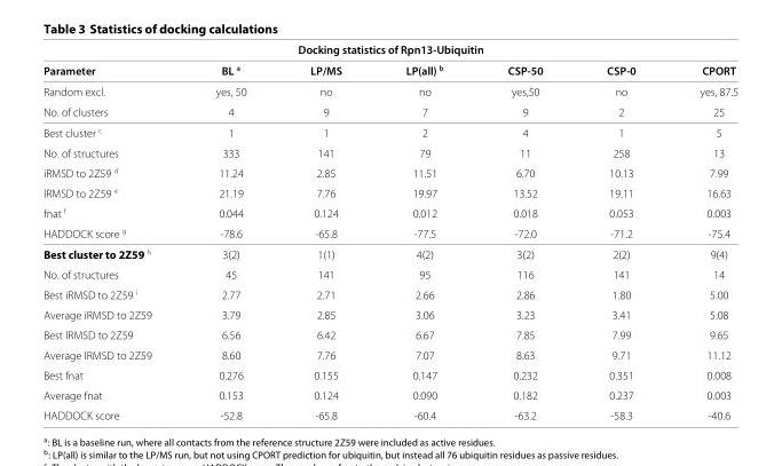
<table><thead><tr><td colspan="7">Docking statistics of Rpn13-Ubiquitin</td></tr><tr><td>Parameter</td><td>BL <sup>a</sup></td><td>LP/MS</td><td>LP(all) <sup>b</sup></td><td>CSP-50</td><td>CSP-0</td><td>CPORT</td></tr></thead><tbody><tr><td>Random excl.</td><td>yes, 50</td><td>no</td><td>no</td><td>yes,50</td><td>no</td><td>yes, 87.5</td></tr><tr><td>No. of clusters</td><td>4</td><td>9</td><td>7</td><td>9</td><td>2</td><td>25</td></tr><tr><td>Best cluster <sup>c</sup></td><td>1</td><td>1</td><td>2</td><td>4</td><td>1</td><td>5</td></tr><tr><td>No. of structures</td><td>333</td><td>141</td><td>79</td><td>11</td><td>258</td><td>13</td></tr><tr><td>iRMSD to 2Z59 <sup>d</sup></td><td>11.24</td><td>2.85</td><td>11.51</td><td>6.70</td><td>10.13</td><td>7.99</td></tr><tr><td>lRMSD to 2Z59 <sup>e</sup></td><td>21.19</td><td>7.76</td><td>19.97</td><td>13.52</td><td>19.11</td><td>16.63</td></tr><tr><td>fnat <sup>f</sup></td><td>0.044</td><td>0.124</td><td>0.012</td><td>0.018</td><td>0.053</td><td>0.003</td></tr><tr><td>HADDOCK score <sup>g</sup></td><td>-78.6</td><td>-65.8</td><td>-77.5</td><td>-72.0</td><td>-71.2</td><td>-75.4</td></tr><tr><td>Best cluster to 2Z59 <sup>h</sup></td><td>3(2)</td><td>1(1)</td><td>4(2)</td><td>3(2)</td><td>2(2)</td><td>9(4)</td></tr><tr><td>No. of structures</td><td>45</td><td>141</td><td>95</td><td>116</td><td>141</td><td>14</td></tr><tr><td>Best iRMSD to 2Z59 <sup>i</sup></td><td>2.77</td><td>2.71</td><td>2.66</td><td>2.86</td><td>1.80</td><td>5.00</td></tr><tr><td>Average iRMSD to 2Z59</td><td>3.79</td><td>2.85</td><td>3.06</td><td>3.23</td><td>3.41</td><td>5.08</td></tr><tr><td>Best lRMSD to 2Z59</td><td>6.56</td><td>6.42</td><td>6.67</td><td>7.85</td><td>7.99</td><td>9.65</td></tr><tr><td>Average lRMSD to 2Z59</td><td>8.60</td><td>7.76</td><td>7.07</td><td>8.63</td><td>9.71</td><td>11.12</td></tr><tr><td>Best fnat</td><td>0.276</td><td>0.155</td><td>0.147</td><td>0.232</td><td>0.351</td><td>0.008</td></tr><tr><td>Average fnat</td><td>0.153</td><td>0.124</td><td>0.090</td><td>0.182</td><td>0.237</td><td>0.003</td></tr><tr><td>HADDOCK score</td><td>-52.8</td><td>-65.8</td><td>-60.4</td><td>-63.2</td><td>-58.3</td><td>-40.6</td></tr></tbody></table>